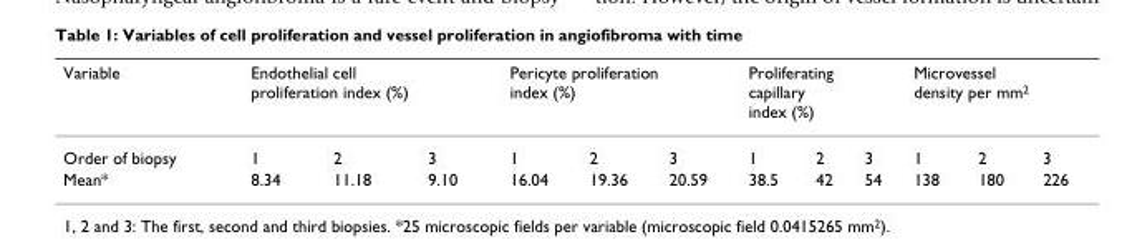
<table><thead><tr><td rowspan="2">Variable Order of biopsy</td><td colspan="3">Endothelial cell proliferation index (%)</td><td colspan="3">Pericyte proliferation index (%)</td><td colspan="3">Proliferating capillary index (%)</td><td colspan="3">Microvessel density per mm<sup>2</sup></td></tr><tr><td>1</td><td>2</td><td>3</td><td>1</td><td>2</td><td>3</td><td>1</td><td>2</td><td>3</td><td>1</td><td>2</td><td>3</td></tr></thead><tbody><tr><td>Mean*</td><td>8.34</td><td>11.18</td><td>9.10</td><td>16.04</td><td>19.36</td><td>20.59</td><td>38.5</td><td>42</td><td>54</td><td>138</td><td>180</td><td>226</td></tr></tbody></table>